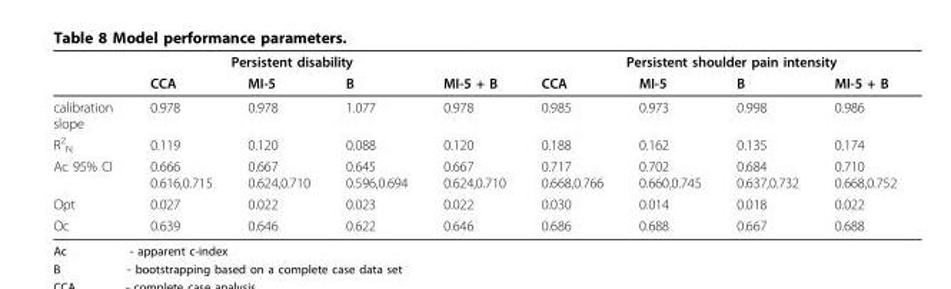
<table><thead><tr><td colspan="5">Persistent disability</td><td colspan="4">Persistent shoulder pain intensity</td></tr><tr><td></td><td>CCA</td><td>MI-5</td><td>B</td><td>MI-5 + B</td><td>CCA</td><td>MI-5</td><td>B</td><td>MI-5 + B</td></tr></thead><tbody><tr><td>calibration slope</td><td>0.978</td><td>0.978</td><td>1.077</td><td>0.978</td><td>0.985</td><td>0.973</td><td>0.998</td><td>0.986</td></tr><tr><td>R<sup>2</sup> <sub>N</sub></td><td>0.119</td><td>0.120</td><td>0.088</td><td>0.120</td><td>0.188</td><td>0.162</td><td>0.135</td><td>0.174</td></tr><tr><td>Ac 95% CI</td><td>0.666 0.616,0.715</td><td>0.667 0.624,0.710</td><td>0.645 0.596,0.694</td><td>0.667 0.624,0.710</td><td>0.717 0.668,0.766</td><td>0.702 0.660,0.745</td><td>0.684 0.637,0.732</td><td>0.710 0.668,0.752</td></tr><tr><td>Opt</td><td>0.027</td><td>0.022</td><td>0.023</td><td>0.022</td><td>0.030</td><td>0.014</td><td>0.018</td><td>0.022</td></tr><tr><td>Oc</td><td>0.639</td><td>0.646</td><td>0.622</td><td>0.646</td><td>0.686</td><td>0.688</td><td>0.667</td><td>0.688</td></tr></tbody></table>